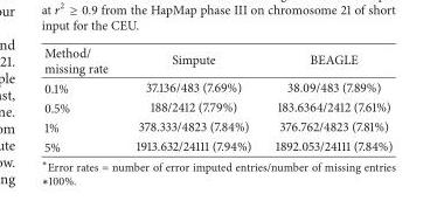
<table><thead><tr><td>Method/ missing rate</td><td>Simpute</td><td>BEAGLE</td></tr></thead><tbody><tr><td>0.1%</td><td>37.136/483 (7.69%)</td><td>38.09/483 (7.89%)</td></tr><tr><td>0.5%</td><td>188/2412 (7.79%)</td><td>183.6364/2412 (7.61%)</td></tr><tr><td>1%</td><td>378.333/4823 (7.84%)</td><td>376.762/4823 (7.81%)</td></tr><tr><td>5%</td><td>1913.632/24111 (7.94%)</td><td>1892.053/24111 (7.84%)</td></tr></tbody></table>